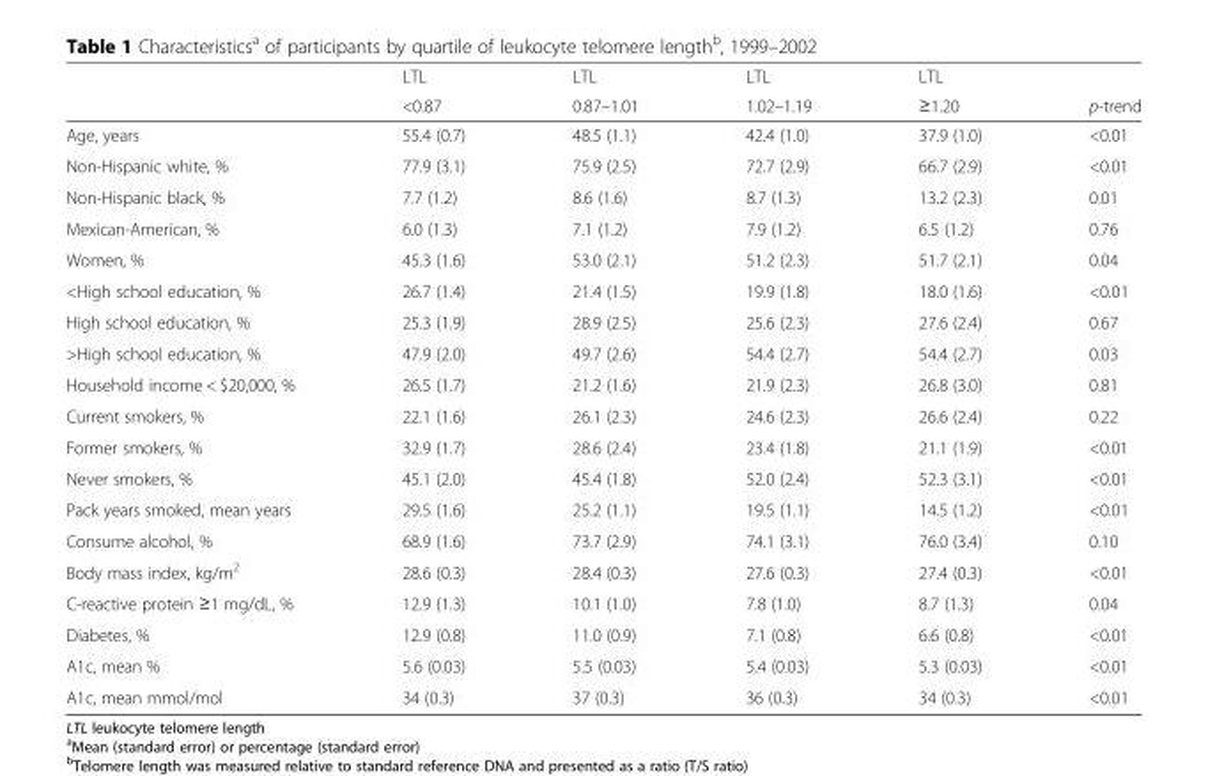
<table><thead><tr><td rowspan="2"></td><td rowspan="2">LTL &lt;0.87</td><td rowspan="2">LTL 0.87–1.01</td><td rowspan="2">LTL 1.02–1.19</td><td rowspan="2">LTL ≥1.20</td><td rowspan="2">p-trend</td></tr><tr></tr></thead><tbody><tr><td>Age, years</td><td>55.4 (0.7)</td><td>48.5 (1.1)</td><td>42.4 (1.0)</td><td>37.9 (1.0)</td><td>&lt;0.01</td></tr><tr><td>Non-Hispanic white, %</td><td>77.9 (3.1)</td><td>75.9 (2.5)</td><td>72.7 (2.9)</td><td>66.7 (2.9)</td><td>&lt;0.01</td></tr><tr><td>Non-Hispanic black, %</td><td>7.7 (1.2)</td><td>8.6 (1.6)</td><td>8.7 (1.3)</td><td>13.2 (2.3)</td><td>0.01</td></tr><tr><td>Mexican-American, %</td><td>6.0 (1.3)</td><td>7.1 (1.2)</td><td>7.9 (1.2)</td><td>6.5 (1.2)</td><td>0.76</td></tr><tr><td>Women, %</td><td>45.3 (1.6)</td><td>53.0 (2.1)</td><td>51.2 (2.3)</td><td>51.7 (2.1)</td><td>0.04</td></tr><tr><td>&lt;High school education, %</td><td>26.7 (1.4)</td><td>21.4 (1.5)</td><td>19.9 (1.8)</td><td>18.0 (1.6)</td><td>&lt;0.01</td></tr><tr><td>High school education, %</td><td>25.3 (1.9)</td><td>28.9 (2.5)</td><td>25.6 (2.3)</td><td>27.6 (2.4)</td><td>0.67</td></tr><tr><td>&gt;High school education, %</td><td>47.9 (2.0)</td><td>49.7 (2.6)</td><td>54.4 (2.7)</td><td>54.4 (2.7)</td><td>0.03</td></tr><tr><td>Household income &lt; $20,000, %</td><td>26.5 (1.7)</td><td>21.2 (1.6)</td><td>21.9 (2.3)</td><td>26.8 (3.0)</td><td>0.81</td></tr><tr><td>Current smokers, %</td><td>22.1 (1.6)</td><td>26.1 (2.3)</td><td>24.6 (2.3)</td><td>26.6 (2.4)</td><td>0.22</td></tr><tr><td>Former smokers, %</td><td>32.9 (1.7)</td><td>28.6 (2.4)</td><td>23.4 (1.8)</td><td>21.1 (1.9)</td><td>&lt;0.01</td></tr><tr><td>Never smokers, %</td><td>45.1 (2.0)</td><td>45.4 (1.8)</td><td>52.0 (2.4)</td><td>52.3 (3.1)</td><td>&lt;0.01</td></tr><tr><td>Pack years smoked, mean years</td><td>29.5 (1.6)</td><td>25.2 (1.1)</td><td>19.5 (1.1)</td><td>14.5 (1.2)</td><td>&lt;0.01</td></tr><tr><td>Consume alcohol, %</td><td>68.9 (1.6)</td><td>73.7 (2.9)</td><td>74.1 (3.1)</td><td>76.0 (3.4)</td><td>0.10</td></tr><tr><td>Body mass index, kg/m<sup>2</sup></td><td>28.6 (0.3)</td><td>28.4 (0.3)</td><td>27.6 (0.3)</td><td>27.4 (0.3)</td><td>&lt;0.01</td></tr><tr><td>C-reactive protein ≥1 mg/dL, %</td><td>12.9 (1.3)</td><td>10.1 (1.0)</td><td>7.8 (1.0)</td><td>8.7 (1.3)</td><td>0.04</td></tr><tr><td>Diabetes, %</td><td>12.9 (0.8)</td><td>11.0 (0.9)</td><td>7.1 (0.8)</td><td>6.6 (0.8)</td><td>&lt;0.01</td></tr><tr><td>A1c, mean %</td><td>5.6 (0.03)</td><td>5.5 (0.03)</td><td>5.4 (0.03)</td><td>5.3 (0.03)</td><td>&lt;0.01</td></tr><tr><td>A1c, mean mmol/mol</td><td>34 (0.3)</td><td>37 (0.3)</td><td>36 (0.3)</td><td>34 (0.3)</td><td>&lt;0.01</td></tr></tbody></table>